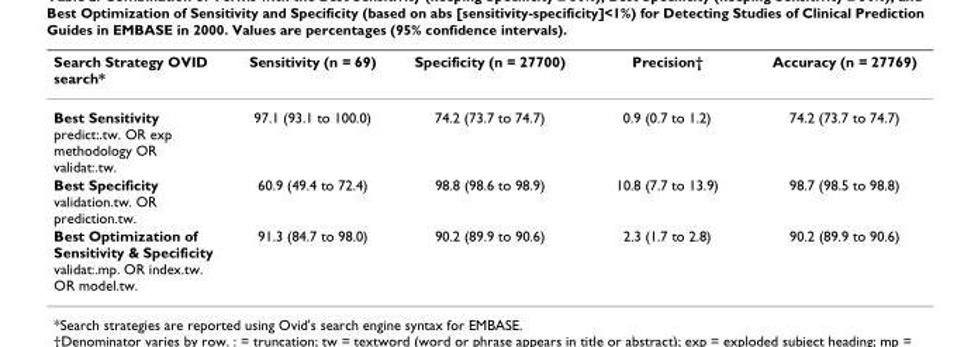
<table><thead><tr><td>Search Strategy OVID search*</td><td>Sensitivity (n = 69)</td><td>Specificity (n = 27700)</td><td>Precision†</td><td>Accuracy (n = 27769)</td></tr></thead><tbody><tr><td>Best Sensitivity predict:.tw. OR exp methodology OR validat:.tw.</td><td>97.1 (93.1 to 100.0)</td><td>74.2 (73.7 to 74.7)</td><td>0.9 (0.7 to 1.2)</td><td>74.2 (73.7 to 74.7)</td></tr><tr><td>Best Specificity validation.tw. OR prediction.tw.</td><td>60.9 (49.4 to 72.4)</td><td>98.8 (98.6 to 98.9)</td><td>10.8 (7.7 to 13.9)</td><td>98.7 (98.5 to 98.8)</td></tr><tr><td>Best Optimization of Sensitivity &amp; Specificity validat:.mp. OR index.tw. OR model.tw.</td><td>91.3 (84.7 to 98.0)</td><td>90.2 (89.9 to 90.6)</td><td>2.3 (1.7 to 2.8)</td><td>90.2 (89.9 to 90.6)</td></tr></tbody></table>